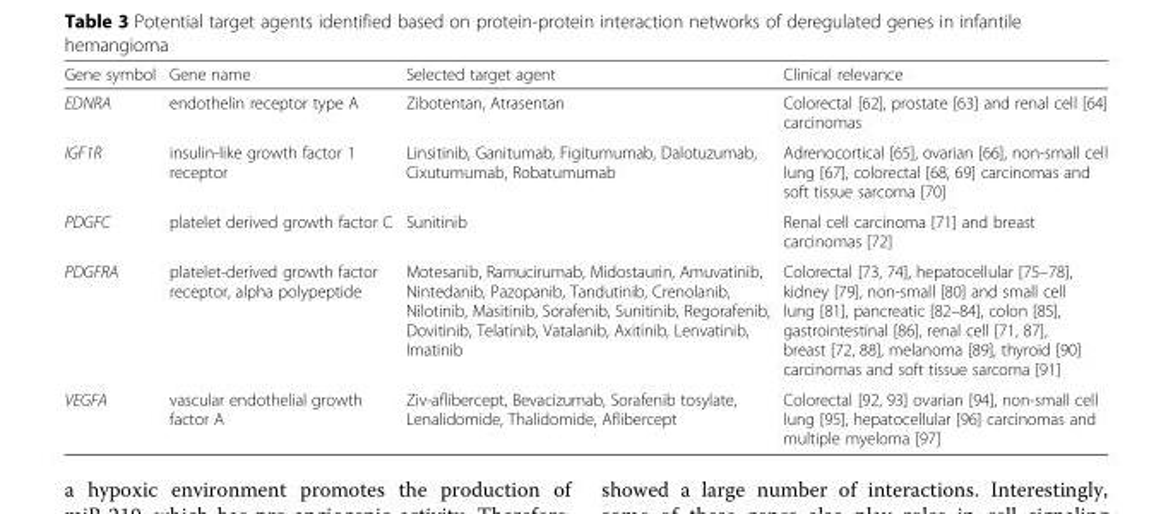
<table><thead><tr><td>Gene symbol</td><td>Gene name</td><td>Selected target agent</td><td>Clinical relevance</td></tr></thead><tbody><tr><td>EDNRA</td><td>endothelin receptor type A</td><td>Zibotentan, Atrasentan</td><td>Colorectal [62], prostate [63] and renal cell [64] carcinomas</td></tr><tr><td>IGF1R</td><td>insulin-like growth factor 1 receptor</td><td>Linsitinib, Ganitumab, Figitumumab, Dalotuzumab, Cixutumumab, Robatumumab</td><td>Adrenocortical [65], ovarian [66], non-small cell lung [67], colorectal [68, 69] carcinomas and soft tissue sarcoma [70]</td></tr><tr><td>PDGFC</td><td>platelet derived growth factor C</td><td>Sunitinib</td><td>Renal cell carcinoma [71] and breast carcinomas [72]</td></tr><tr><td>PDGFRA</td><td>platelet-derived growth factor receptor, alpha polypeptide</td><td>Motesanib, Ramucirumab, Midostaurin, Amuvatinib, Nintedanib, Pazopanib, Tandutinib, Crenolanib, Nilotinib, Masitinib, Sorafenib, Sunitinib, Regorafenib, Dovitinib, Telatinib, Vatalanib, Axitinib, Lenvatinib, Imatinib</td><td>Colorectal [73, 74], hepatocellular [75–78], kidney [79], non-small [80] and small cell lung [81], pancreatic [82–84], colon [85], gastrointestinal [86], renal cell [71, 87], breast [72, 88], melanoma [89], thyroid [90] carcinomas and soft tissue sarcoma [91]</td></tr><tr><td>VEGFA</td><td>vascular endothelial growth factor A</td><td>Ziv-aflibercept, Bevacizumab, Sorafenib tosylate, Lenalidomide, Thalidomide, Aflibercept</td><td>Colorectal [92, 93] ovarian [94], non-small cell lung [95], hepatocellular [96] carcinomas and multiple myeloma [97]</td></tr></tbody></table>